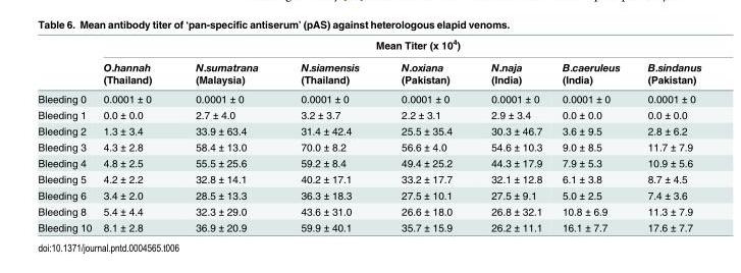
<table><thead><tr><td rowspan="2"></td><td colspan="7">Mean Titer (x 10<sup>4</sup>)</td></tr><tr><td>O.hannah (Thailand)</td><td>N.sumatrana (Malaysia)</td><td>N.siamensis (Thailand)</td><td>N.oxiana (Pakistan)</td><td>N.naja (India)</td><td>B.caeruleus (India)</td><td>B.sindanus (Pakistan)</td></tr></thead><tbody><tr><td>Bleeding 0</td><td>0.0001 ± 0</td><td>0.0001 ± 0</td><td>0.0001 ± 0</td><td>0.0001 ± 0</td><td>0.0001 ± 0</td><td>0.0001 ± 0</td><td>0.0001 ± 0</td></tr><tr><td>Bleeding 1</td><td>0.0 ± 0.0</td><td>2.7 ± 4.0</td><td>3.2 ± 3.7</td><td>2.2 ± 3.1</td><td>2.9 ± 3.4</td><td>0.0 ± 0.0</td><td>0.0 ± 0.0</td></tr><tr><td>Bleeding 2</td><td>1.3 ± 3.4</td><td>33.9 ± 63.4</td><td>31.4 ± 42.4</td><td>25.5 ± 35.4</td><td>30.3 ± 46.7</td><td>3.6 ± 9.5</td><td>2.8 ± 6.2</td></tr><tr><td>Bleeding 3</td><td>4.3 ± 2.8</td><td>58.4 ± 13.0</td><td>70.0 ± 8.2</td><td>56.6 ± 4.0</td><td>54.6 ± 10.3</td><td>9.0 ± 8.5</td><td>11.7 ± 7.9</td></tr><tr><td>Bleeding 4</td><td>4.8 ± 2.5</td><td>55.5 ± 25.6</td><td>59.2 ± 8.4</td><td>49.4 ± 25.2</td><td>44.3 ± 17.9</td><td>7.9 ± 5.3</td><td>10.9 ± 5.6</td></tr><tr><td>Bleeding 5</td><td>4.2 ± 2.2</td><td>32.8 ± 14.1</td><td>40.2 ± 17.1</td><td>33.2 ± 17.7</td><td>32.1 ± 12.8</td><td>6.1 ± 3.8</td><td>8.7 ± 4.5</td></tr><tr><td>Bleeding 6</td><td>3.4 ± 2.0</td><td>28.5 ± 13.3</td><td>36.3 ± 18.3</td><td>27.5 ± 10.1</td><td>27.5 ± 9.1</td><td>5.0 ± 2.5</td><td>7.4 ± 3.6</td></tr><tr><td>Bleeding 8</td><td>5.4 ± 4.4</td><td>32.3 ± 29.0</td><td>43.6 ± 31.0</td><td>26.6 ± 18.0</td><td>26.8 ± 32.1</td><td>10.8 ± 6.9</td><td>11.3 ± 7.9</td></tr><tr><td>Bleeding 10</td><td>8.1 ± 2.8</td><td>36.9 ± 20.9</td><td>59.9 ± 40.1</td><td>35.7 ± 15.9</td><td>26.2 ± 11.1</td><td>16.1 ± 7.7</td><td>17.6 ± 7.7</td></tr></tbody></table>